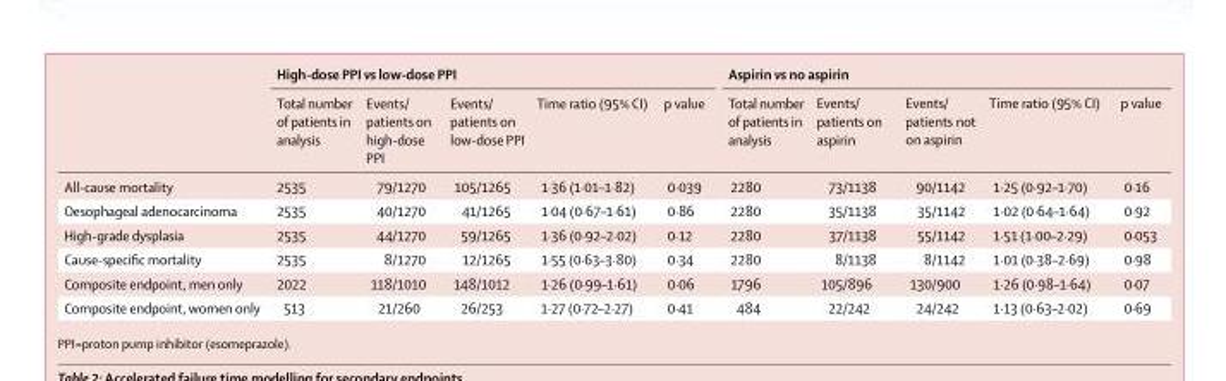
<table><thead><tr><td rowspan="2"></td><td colspan="5">High-dose PPI vs low-dose PPI</td><td colspan="5">Aspirin vs no aspirin</td></tr><tr><td>Total number of patients in analysis</td><td>Events/ patients on high-dose PPI</td><td>Events/ patients on low-dose PPI</td><td>Time ratio (95% CI)</td><td>p value</td><td>Total number of patients in analysis</td><td>Events/ patients on aspirin</td><td>Events/ patients not on aspirin</td><td>Time ratio (95% CI)</td><td>p value</td></tr></thead><tbody><tr><td>All-cause mortality</td><td>2535</td><td>79/1270</td><td>105/1265</td><td>1·36 (1·01–1·82)</td><td>0·039</td><td>2280</td><td>73/1138</td><td>90/1142</td><td>1·25 (0·92–1·70)</td><td>0·16</td></tr><tr><td>Oesophageal adenocarcinoma</td><td>2535</td><td>40/1270</td><td>41/1265</td><td>1·04 (0·67–1·61)</td><td>0·86</td><td>2280</td><td>35/1138</td><td>35/1142</td><td>1·02 (0·64–1·64)</td><td>0·92</td></tr><tr><td>High-grade dysplasia</td><td>2535</td><td>44/1270</td><td>59/1265</td><td>1·36 (0·92–2·02)</td><td>0·12</td><td>2280</td><td>37/1138</td><td>55/1142</td><td>1·51 (1·00–2·29)</td><td>0·053</td></tr><tr><td>Cause-specific mortality</td><td>2535</td><td>8/1270</td><td>12/1265</td><td>1·55 (0·63–3·80)</td><td>0·34</td><td>2280</td><td>8/1138</td><td>8/1142</td><td>1·01 (0·38–2·69)</td><td>0·98</td></tr><tr><td>Composite endpoint, men only</td><td>2022</td><td>118/1010</td><td>148/1012</td><td>1·26 (0·99–1·61)</td><td>0·06</td><td>1796</td><td>105/896</td><td>130/900</td><td>1·26 (0·98–1·64)</td><td>0·07</td></tr><tr><td>Composite endpoint, women only</td><td>513</td><td>21/260</td><td>26/253</td><td>1·27 (0·72–2·27)</td><td>0·41</td><td>484</td><td>22/242</td><td>24/242</td><td>1·13 (0·63–2·02)</td><td>0·69</td></tr></tbody></table>